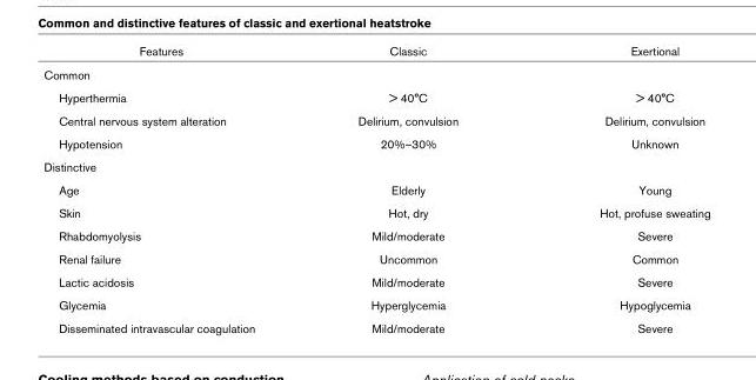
<table><thead><tr><td>Features</td><td>Classic</td><td>Exertional</td></tr></thead><tbody><tr><td colspan="3">Common</td></tr><tr><td>Hyperthermia</td><td>&gt; 40°C</td><td>&gt; 40°C</td></tr><tr><td>Central nervous system alteration</td><td>Delirium, convulsion</td><td>Delirium, convulsion</td></tr><tr><td>Hypotension</td><td>20%–30%</td><td>Unknown</td></tr><tr><td colspan="3">Distinctive</td></tr><tr><td>Age</td><td>Elderly</td><td>Young</td></tr><tr><td>Skin</td><td>Hot, dry</td><td>Hot, profuse sweating</td></tr><tr><td>Rhabdomyolysis</td><td>Mild/moderate</td><td>Severe</td></tr><tr><td>Renal failure</td><td>Uncommon</td><td>Common</td></tr><tr><td>Lactic acidosis</td><td>Mild/moderate</td><td>Severe</td></tr><tr><td>Glycemia</td><td>Hyperglycemia</td><td>Hypoglycemia</td></tr><tr><td>Disseminated intravascular coagulation</td><td>Mild/moderate</td><td>Severe</td></tr></tbody></table>